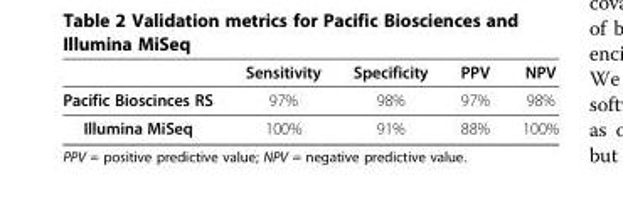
<table><thead><tr><td></td><td>Sensitivity</td><td>Specificity</td><td>PPV</td><td>NPV</td></tr></thead><tbody><tr><td>Pacific Bioscinces RS</td><td>97%</td><td>98%</td><td>97%</td><td>98%</td></tr><tr><td>Illumina MiSeq</td><td>100%</td><td>91%</td><td>88%</td><td>100%</td></tr></tbody></table>